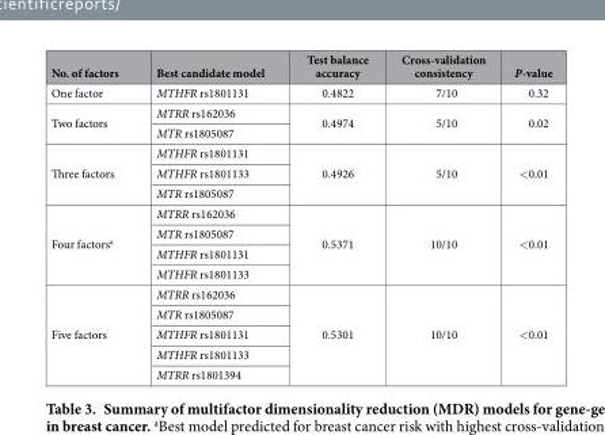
<table><thead><tr><td>No. of factors</td><td>Best candidate model</td><td>Test balance accuracy</td><td>Cross-validation consistency</td><td>P-value</td></tr></thead><tbody><tr><td>One factor</td><td>MTHFR rs1801131</td><td>0.4822</td><td>7/10</td><td>0.32</td></tr><tr><td rowspan="2">Two factors</td><td>MTRR rs162036</td><td rowspan="2">0.4974</td><td rowspan="2">5/10</td><td rowspan="2">0.02</td></tr><tr><td>MTR rs1805087</td></tr><tr><td rowspan="3">Three factors</td><td>MTHFR rs1801131</td><td rowspan="3">0.4926</td><td rowspan="3">5/10</td><td rowspan="3">&lt; 0.01</td></tr><tr><td>MTHFR rs1801133</td></tr><tr><td>MTR rs1805087</td></tr><tr><td rowspan="4">Four factors<sup>a</sup></td><td>MTRR rs162036</td><td rowspan="4">0.5371</td><td rowspan="4">10/10</td><td rowspan="4">&lt; 0.01</td></tr><tr><td>MTR rs1805087</td></tr><tr><td>MTHFR rs1801131</td></tr><tr><td>MTHFR rs1801133</td></tr><tr><td rowspan="5">Five factors</td><td>MTRR rs162036</td><td rowspan="5">0.5301</td><td rowspan="5">10/10</td><td rowspan="5">&lt; 0.01</td></tr><tr><td>MTR rs1805087</td></tr><tr><td>MTHFR rs1801131</td></tr><tr><td>MTHFR rs1801133</td></tr><tr><td>MTRR rs1801394</td></tr></tbody></table>